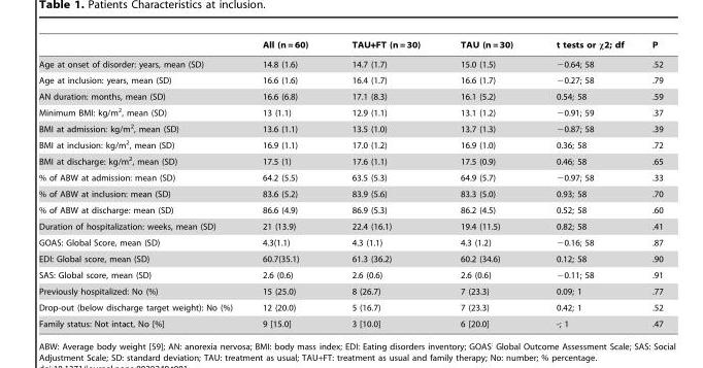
<table><thead><tr><td></td><td>All (n = 60)</td><td>TAU+FT (n = 30)</td><td>TAU (n = 30)</td><td>t tests or χ2; df</td><td>P</td></tr></thead><tbody><tr><td>Age at onset of disorder: years, mean (SD)</td><td>14.8 (1.6)</td><td>14.7 (1.7)</td><td>15.0 (1.5)</td><td>−0.64; 58</td><td>.52</td></tr><tr><td>Age at inclusion: years, mean (SD)</td><td>16.6 (1.6)</td><td>16.4 (1.7)</td><td>16.6 (1.7)</td><td>−0.27; 58</td><td>.79</td></tr><tr><td>AN duration: months, mean (SD)</td><td>16.6 (6.8)</td><td>17.1 (8.3)</td><td>16.1 (5.2)</td><td>0.54; 58</td><td>.59</td></tr><tr><td>Minimum BMI: kg/m<sup>2</sup>, mean (SD)</td><td>13 (1.1)</td><td>12.9 (1.1)</td><td>13.1 (1.2)</td><td>−0.91; 59</td><td>.37</td></tr><tr><td>BMI at admission: kg/m<sup>2</sup>, mean (SD)</td><td>13.6 (1.1)</td><td>13.5 (1.0)</td><td>13.7 (1.3)</td><td>−0.87; 58</td><td>.39</td></tr><tr><td>BMI at inclusion: kg/m<sup>2</sup>, mean (SD)</td><td>16.9 (1.1)</td><td>17.0 (1.2)</td><td>16.9 (1.0)</td><td>0.36; 58</td><td>.72</td></tr><tr><td>BMI at discharge: kg/m<sup>2</sup>, mean (SD)</td><td>17.5 (1)</td><td>17.6 (1.1)</td><td>17.5 (0.9)</td><td>0.46; 58</td><td>.65</td></tr><tr><td>% of ABW at admission: mean (SD)</td><td>64.2 (5.5)</td><td>63.5 (5.3)</td><td>64.9 (5.7)</td><td>−0.97; 58</td><td>.33</td></tr><tr><td>% of ABW at inclusion: mean (SD)</td><td>83.6 (5.2)</td><td>83.9 (5.6)</td><td>83.3 (5.0)</td><td>0.93; 58</td><td>.70</td></tr><tr><td>% of ABW at discharge: mean (SD)</td><td>86.6 (4.9)</td><td>86.9 (5.3)</td><td>86.2 (4.5)</td><td>0.52; 58</td><td>.60</td></tr><tr><td>Duration of hospitalization: weeks, mean (SD)</td><td>21 (13.9)</td><td>22.4 (16.1)</td><td>19.4 (11.5)</td><td>0.82; 58</td><td>.41</td></tr><tr><td>GOAS: Global Score, mean (SD)</td><td>4.3(1.1)</td><td>4.3 (1.1)</td><td>4.3 (1.2)</td><td>−0.16; 58</td><td>.87</td></tr><tr><td>EDI: Global score, mean (SD)</td><td>60.7(35.1)</td><td>61.3 (36.2)</td><td>60.2 (34.6)</td><td>0.12; 58</td><td>.90</td></tr><tr><td>SAS: Global score, mean (SD)</td><td>2.6 (0.6)</td><td>2.6 (0.6)</td><td>2.6 (0.6)</td><td>−0.11; 58</td><td>.91</td></tr><tr><td>Previously hospitalized: No (%)</td><td>15 (25.0)</td><td>8 (26.7)</td><td>7 (23.3)</td><td>0.09; 1</td><td>.77</td></tr><tr><td>Drop-out (below discharge target weight): No (%)</td><td>12 (20.0)</td><td>5 (16.7)</td><td>7 (23.3)</td><td>0.42; 1</td><td>.52</td></tr><tr><td>Family status: Not intact, No [%]</td><td>9 [15.0]</td><td>3 [10.0]</td><td>6 [20.0]</td><td>-; 1</td><td>.47</td></tr></tbody></table>